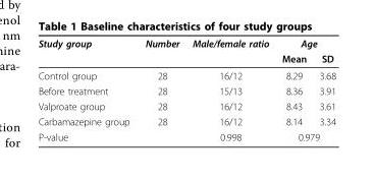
<table><thead><tr><td rowspan="2">Study group</td><td rowspan="2">Number</td><td rowspan="2">Male/female ratio</td><td colspan="2">Age</td></tr><tr><td>Mean</td><td>SD</td></tr></thead><tbody><tr><td>Control group</td><td>28</td><td>16/12</td><td>8.29</td><td>3.68</td></tr><tr><td>Before treatment</td><td>28</td><td>15/13</td><td>8.36</td><td>3.91</td></tr><tr><td>Valproate group</td><td>28</td><td>16/12</td><td>8.43</td><td>3.61</td></tr><tr><td>Carbamazepine group</td><td>28</td><td>16/12</td><td>8.14</td><td>3.34</td></tr><tr><td>P-value</td><td></td><td>0.998</td><td colspan="2">0.979</td></tr></tbody></table>